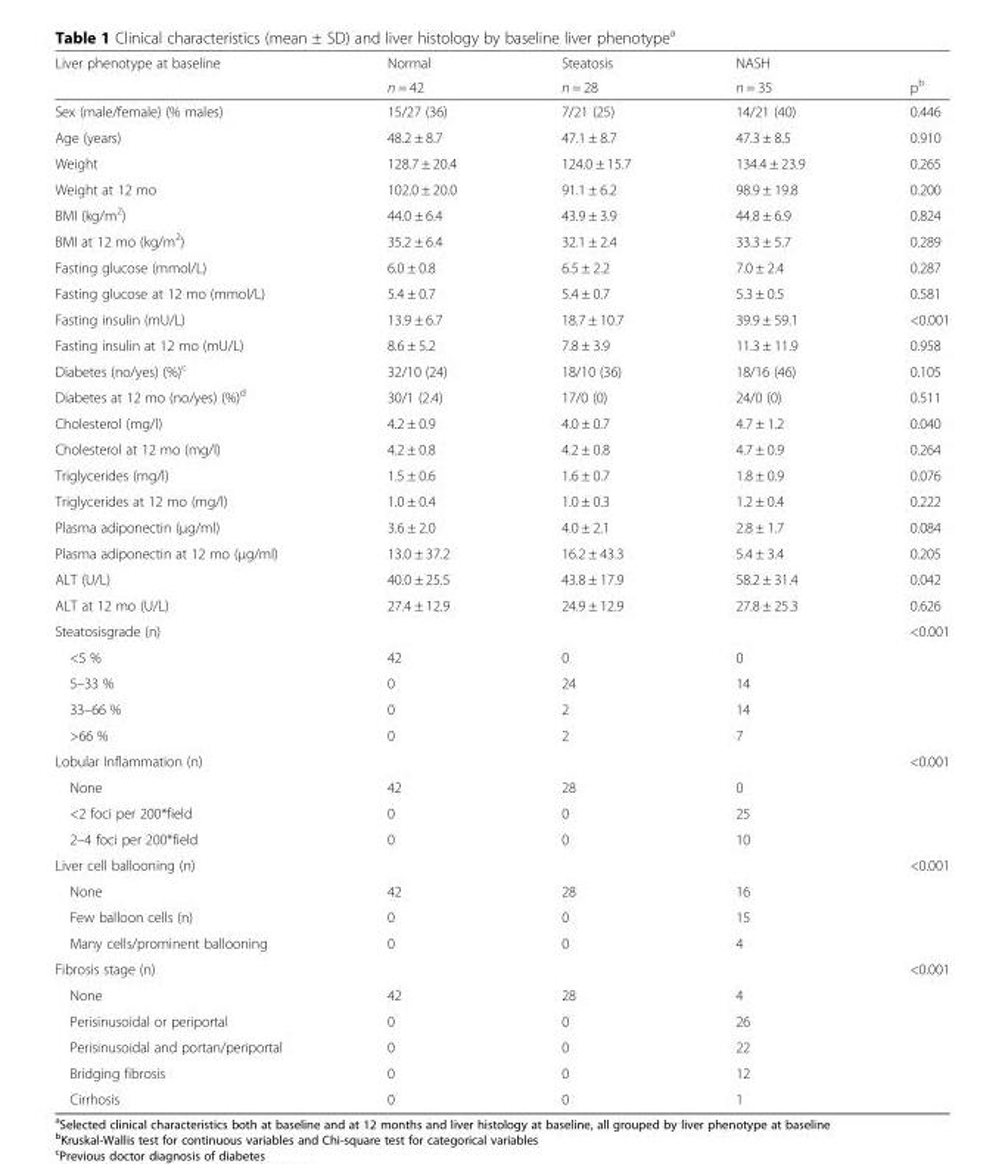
<table><thead><tr><td rowspan="2">Liver phenotype at baseline</td><td rowspan="2">Normal n = 42</td><td rowspan="2">Steatosis n = 28</td><td rowspan="2">NASH n = 35</td><td rowspan="2">p<sup>b</sup></td></tr><tr></tr></thead><tbody><tr><td>Sex (male/female) (% males)</td><td>15/27 (36)</td><td>7/21 (25)</td><td>14/21 (40)</td><td>0.446</td></tr><tr><td>Age (years)</td><td>48.2 ± 8.7</td><td>47.1 ± 8.7</td><td>47.3 ± 8.5</td><td>0.910</td></tr><tr><td>Weight</td><td>128.7 ± 20.4</td><td>124.0 ± 15.7</td><td>134.4 ± 23.9</td><td>0.265</td></tr><tr><td>Weight at 12 mo</td><td>102.0 ± 20.0</td><td>91.1 ± 6.2</td><td>98.9 ± 19.8</td><td>0.200</td></tr><tr><td>BMI (kg/m<sup>2</sup>)</td><td>44.0 ± 6.4</td><td>43.9 ± 3.9</td><td>44.8 ± 6.9</td><td>0.824</td></tr><tr><td>BMI at 12 mo (kg/m<sup>2</sup>)</td><td>35.2 ± 6.4</td><td>32.1 ± 2.4</td><td>33.3 ± 5.7</td><td>0.289</td></tr><tr><td>Fasting glucose (mmol/L)</td><td>6.0 ± 0.8</td><td>6.5 ± 2.2</td><td>7.0 ± 2.4</td><td>0.287</td></tr><tr><td>Fasting glucose at 12 mo (mmol/L)</td><td>5.4 ± 0.7</td><td>5.4 ± 0.7</td><td>5.3 ± 0.5</td><td>0.581</td></tr><tr><td>Fasting insulin (mU/L)</td><td>13.9 ± 6.7</td><td>18.7 ± 10.7</td><td>39.9 ± 59.1</td><td>&lt;0.001</td></tr><tr><td>Fasting insulin at 12 mo (mU/L)</td><td>8.6 ± 5.2</td><td>7.8 ± 3.9</td><td>11.3 ± 11.9</td><td>0.958</td></tr><tr><td>Diabetes (no/yes) (%)<sup>c</sup></td><td>32/10 (24)</td><td>18/10 (36)</td><td>18/16 (46)</td><td>0.105</td></tr><tr><td>Diabetes at 12 mo (no/yes) (%)<sup>d</sup></td><td>30/1 (2.4)</td><td>17/0 (0)</td><td>24/0 (0)</td><td>0.511</td></tr><tr><td>Cholesterol (mg/l)</td><td>4.2 ± 0.9</td><td>4.0 ± 0.7</td><td>4.7 ± 1.2</td><td>0.040</td></tr><tr><td>Cholesterol at 12 mo (mg/l)</td><td>4.2 ± 0.8</td><td>4.2 ± 0.8</td><td>4.7 ± 0.9</td><td>0.264</td></tr><tr><td>Triglycerides (mg/l)</td><td>1.5 ± 0.6</td><td>1.6 ± 0.7</td><td>1.8 ± 0.9</td><td>0.076</td></tr><tr><td>Triglycerides at 12 mo (mg/l)</td><td>1.0 ± 0.4</td><td>1.0 ± 0.3</td><td>1.2 ± 0.4</td><td>0.222</td></tr><tr><td>Plasma adiponectin (μg/ml)</td><td>3.6 ± 2.0</td><td>4.0 ± 2.1</td><td>2.8 ± 1.7</td><td>0.084</td></tr><tr><td>Plasma adiponectin at 12 mo (μg/ml)</td><td>13.0 ± 37.2</td><td>16.2 ± 43.3</td><td>5.4 ± 3.4</td><td>0.205</td></tr><tr><td>ALT (U/L)</td><td>40.0 ± 25.5</td><td>43.8 ± 17.9</td><td>58.2 ± 31.4</td><td>0.042</td></tr><tr><td>ALT at 12 mo (U/L)</td><td>27.4 ± 12.9</td><td>24.9 ± 12.9</td><td>27.8 ± 25.3</td><td>0.626</td></tr><tr><td>Steatosisgrade (n)</td><td></td><td></td><td></td><td>&lt;0.001</td></tr><tr><td>&lt;5 %</td><td>42</td><td>0</td><td>0</td><td></td></tr><tr><td>5–33 %</td><td>0</td><td>24</td><td>14</td><td></td></tr><tr><td>33–66 %</td><td>0</td><td>2</td><td>14</td><td></td></tr><tr><td>&gt;66 %</td><td>0</td><td>2</td><td>7</td><td></td></tr><tr><td>Lobular Inflammation (n)</td><td></td><td></td><td></td><td>&lt;0.001</td></tr><tr><td>None</td><td>42</td><td>28</td><td>0</td><td></td></tr><tr><td>&lt;2 foci per 200*field</td><td>0</td><td>0</td><td>25</td><td></td></tr><tr><td>2–4 foci per 200*field</td><td>0</td><td>0</td><td>10</td><td></td></tr><tr><td>Liver cell ballooning (n)</td><td></td><td></td><td></td><td>&lt;0.001</td></tr><tr><td>None</td><td>42</td><td>28</td><td>16</td><td></td></tr><tr><td>Few balloon cells (n)</td><td>0</td><td>0</td><td>15</td><td></td></tr><tr><td>Many cells/prominent ballooning</td><td>0</td><td>0</td><td>4</td><td></td></tr><tr><td>Fibrosis stage (n)</td><td></td><td></td><td></td><td>&lt;0.001</td></tr><tr><td>None</td><td>42</td><td>28</td><td>4</td><td></td></tr><tr><td>Perisinusoidal or periportal</td><td>0</td><td>0</td><td>26</td><td></td></tr><tr><td>Perisinusoidal and portan/periportal</td><td>0</td><td>0</td><td>22</td><td></td></tr><tr><td>Bridging fibrosis</td><td>0</td><td>0</td><td>12</td><td></td></tr><tr><td>Cirrhosis</td><td>0</td><td>0</td><td>1</td><td></td></tr></tbody></table>